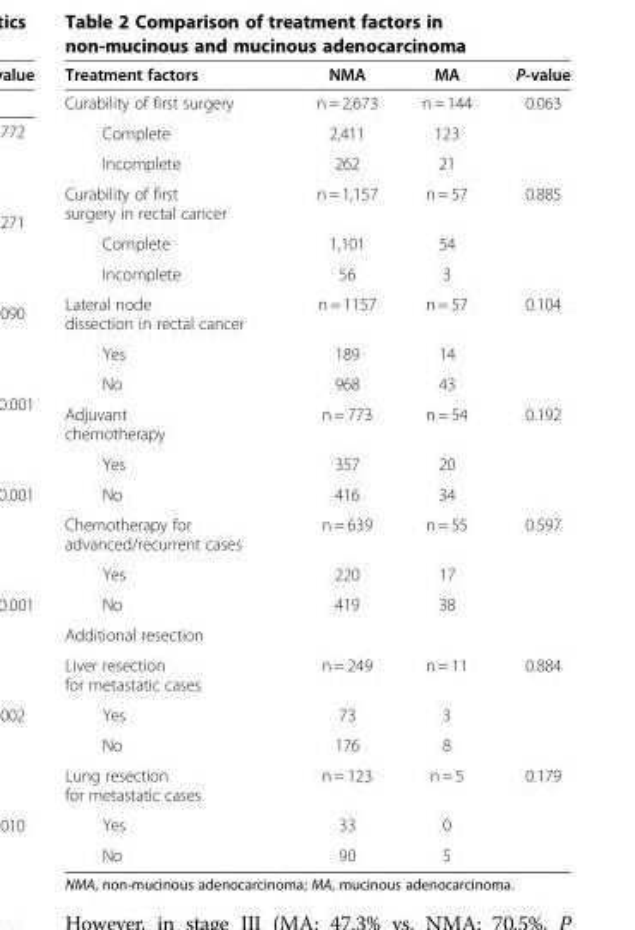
<table><thead><tr><td>Treatment factors</td><td>NMA</td><td>MA</td><td>P-value</td></tr></thead><tbody><tr><td>Curability of first surgery</td><td>n = 2,673</td><td>n = 144</td><td>0.063</td></tr><tr><td>Complete</td><td>2,411</td><td>123</td><td></td></tr><tr><td>Incomplete</td><td>262</td><td>21</td><td></td></tr><tr><td>Curability of first surgery in rectal cancer</td><td>n = 1,157</td><td>n = 57</td><td>0.885</td></tr><tr><td>Complete</td><td>1,101</td><td>54</td><td></td></tr><tr><td>Incomplete</td><td>56</td><td>3</td><td></td></tr><tr><td>Lateral node dissection in rectal cancer</td><td>n = 1157</td><td>n = 57</td><td>0.104</td></tr><tr><td>Yes</td><td>189</td><td>14</td><td></td></tr><tr><td>No</td><td>968</td><td>43</td><td></td></tr><tr><td>Adjuvant chemotherapy</td><td>n = 773</td><td>n = 54</td><td>0.192</td></tr><tr><td>Yes</td><td>357</td><td>20</td><td></td></tr><tr><td>No</td><td>416</td><td>34</td><td></td></tr><tr><td>Chemotherapy for advanced/recurrent cases</td><td>n = 639</td><td>n = 55</td><td>0.597</td></tr><tr><td>Yes</td><td>220</td><td>17</td><td></td></tr><tr><td>No</td><td>419</td><td>38</td><td></td></tr><tr><td colspan="4">Additional resection</td></tr><tr><td>Liver resection for metastatic cases</td><td>n = 249</td><td>n = 11</td><td>0.884</td></tr><tr><td>Yes</td><td>73</td><td>3</td><td></td></tr><tr><td>No</td><td>176</td><td>8</td><td></td></tr><tr><td>Lung resection for metastatic cases</td><td>n = 123</td><td>n = 5</td><td>0.179</td></tr><tr><td>Yes</td><td>33</td><td>0</td><td></td></tr><tr><td>No</td><td>90</td><td>5</td><td></td></tr></tbody></table>